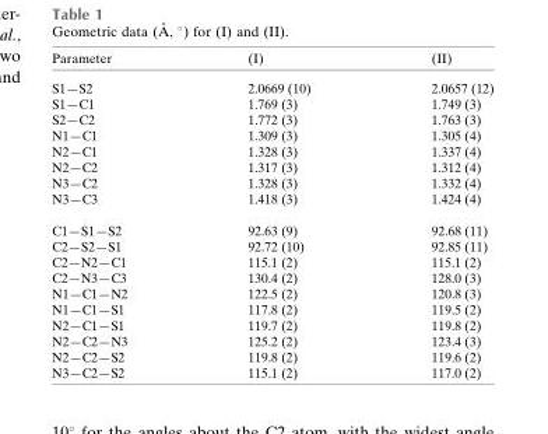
<table><thead><tr><td>Parameter</td><td>(I)</td><td>(II)</td></tr></thead><tbody><tr><td>S1—S2</td><td>2.0669 (10)</td><td>2.0657 (12)</td></tr><tr><td>S1—C1</td><td>1.769 (3)</td><td>1.749 (3)</td></tr><tr><td>S2—C2</td><td>1.772 (3)</td><td>1.763 (3)</td></tr><tr><td>N1—C1</td><td>1.309 (3)</td><td>1.305 (4)</td></tr><tr><td>N2—C1</td><td>1.328 (3)</td><td>1.337 (4)</td></tr><tr><td>N2—C2</td><td>1.317 (3)</td><td>1.312 (4)</td></tr><tr><td>N3—C2</td><td>1.328 (3)</td><td>1.332 (4)</td></tr><tr><td>N3—C3</td><td>1.418 (3)</td><td>1.424 (4)</td></tr><tr><td>C1—S1—S2</td><td>92.63 (9)</td><td>92.68 (11)</td></tr><tr><td>C2—S2—S1</td><td>92.72 (10)</td><td>92.85 (11)</td></tr><tr><td>C2—N2—C1</td><td>115.1 (2)</td><td>115.1 (2)</td></tr><tr><td>C2—N3—C3</td><td>130.4 (2)</td><td>128.0 (3)</td></tr><tr><td>N1—C1—N2</td><td>122.5 (2)</td><td>120.8 (3)</td></tr><tr><td>N1—C1—S1</td><td>117.8 (2)</td><td>119.5 (2)</td></tr><tr><td>N2—C1—S1</td><td>119.7 (2)</td><td>119.8 (2)</td></tr><tr><td>N2—C2—N3</td><td>125.2 (2)</td><td>123.4 (3)</td></tr><tr><td>N2—C2—S2</td><td>119.8 (2)</td><td>119.6 (2)</td></tr><tr><td>N3—C2—S2</td><td>115.1 (2)</td><td>117.0 (2)</td></tr></tbody></table>